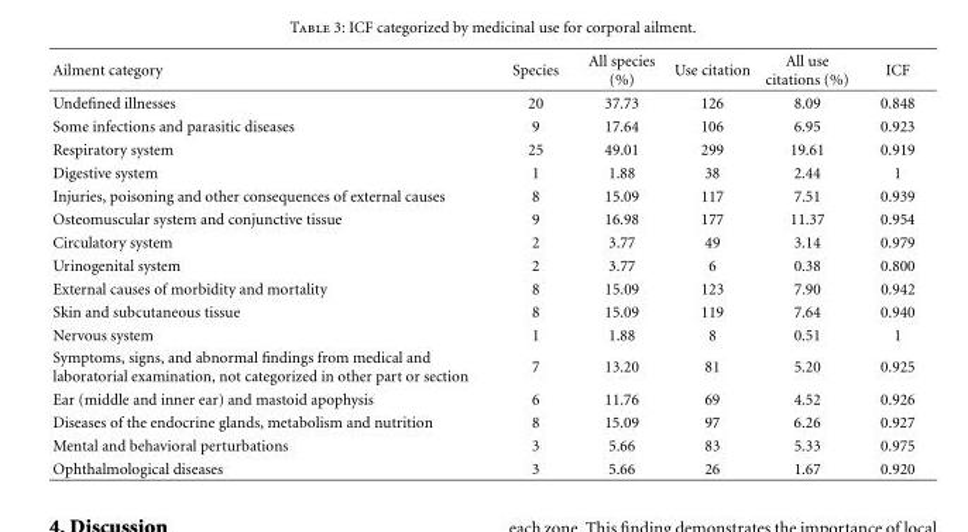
<table><thead><tr><td>Ailment category</td><td>Species</td><td>All species (%)</td><td>Use citation</td><td>All use citations (%)</td><td>ICF</td></tr></thead><tbody><tr><td>Undefined illnesses</td><td>20</td><td>37.73</td><td>126</td><td>8.09</td><td>0.848</td></tr><tr><td>Some infections and parasitic diseases</td><td>9</td><td>17.64</td><td>106</td><td>6.95</td><td>0.923</td></tr><tr><td>Respiratory system</td><td>25</td><td>49.01</td><td>299</td><td>19.61</td><td>0.919</td></tr><tr><td>Digestive system</td><td>1</td><td>1.88</td><td>38</td><td>2.44</td><td>1</td></tr><tr><td>Injuries, poisoning and other consequences of external causes</td><td>8</td><td>15.09</td><td>117</td><td>7.51</td><td>0.939</td></tr><tr><td>Osteomuscular system and conjunctive tissue</td><td>9</td><td>16.98</td><td>177</td><td>11.37</td><td>0.954</td></tr><tr><td>Circulatory system</td><td>2</td><td>3.77</td><td>49</td><td>3.14</td><td>0.979</td></tr><tr><td>Urinogenital system</td><td>2</td><td>3.77</td><td>6</td><td>0.38</td><td>0.800</td></tr><tr><td>External causes of morbidity and mortality</td><td>8</td><td>15.09</td><td>123</td><td>7.90</td><td>0.942</td></tr><tr><td>Skin and subcutaneous tissue</td><td>8</td><td>15.09</td><td>119</td><td>7.64</td><td>0.940</td></tr><tr><td>Nervous system</td><td>1</td><td>1.88</td><td>8</td><td>0.51</td><td>1</td></tr><tr><td>Symptoms, signs, and abnormal findings from medical and laboratorial examination, not categorized in other part or section</td><td>7</td><td>13.20</td><td>81</td><td>5.20</td><td>0.925</td></tr><tr><td>Ear (middle and inner ear) and mastoid apophysis</td><td>6</td><td>11.76</td><td>69</td><td>4.52</td><td>0.926</td></tr><tr><td>Diseases of the endocrine glands, metabolism and nutrition</td><td>8</td><td>15.09</td><td>97</td><td>6.26</td><td>0.927</td></tr><tr><td>Mental and behavioral perturbations</td><td>3</td><td>5.66</td><td>83</td><td>5.33</td><td>0.975</td></tr><tr><td>Ophthalmological diseases</td><td>3</td><td>5.66</td><td>26</td><td>1.67</td><td>0.920</td></tr></tbody></table>